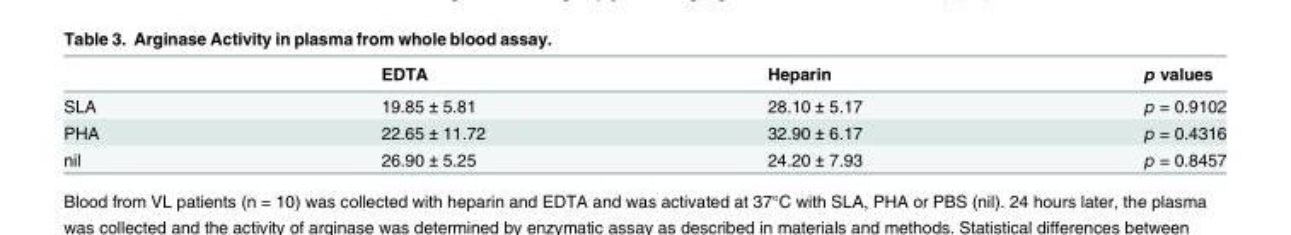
<table><thead><tr><td></td><td>EDTA</td><td>Heparin</td><td>p values</td></tr></thead><tbody><tr><td>SLA</td><td>19.85 ± 5.81</td><td>28.10 ± 5.17</td><td>p = 0.9102</td></tr><tr><td>PHA</td><td>22.65 ± 11.72</td><td>32.90 ± 6.17</td><td>p = 0.4316</td></tr><tr><td>nil</td><td>26.90 ± 5.25</td><td>24.20 ± 7.93</td><td>p = 0.8457</td></tr></tbody></table>